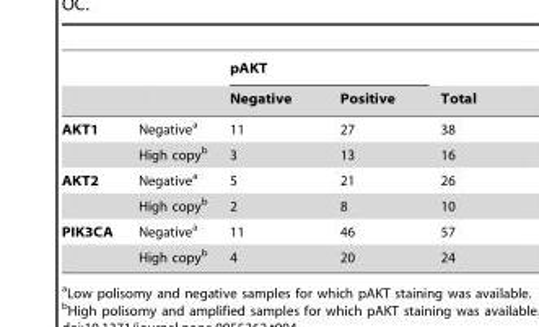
<table><thead><tr><td rowspan="2"></td><td rowspan="2"></td><td colspan="2">pAKT</td><td rowspan="2">Total</td></tr><tr><td>Negative</td><td>Positive</td></tr></thead><tbody><tr><td rowspan="2">AKT1</td><td>Negative<sup>a</sup></td><td>11</td><td>27</td><td>38</td></tr><tr><td>High copy<sup>b</sup></td><td>3</td><td>13</td><td>16</td></tr><tr><td rowspan="2">AKT2</td><td>Negative<sup>a</sup></td><td>5</td><td>21</td><td>26</td></tr><tr><td>High copy<sup>b</sup></td><td>2</td><td>8</td><td>10</td></tr><tr><td rowspan="2">PIK3CA</td><td>Negative<sup>a</sup></td><td>11</td><td>46</td><td>57</td></tr><tr><td>High copy<sup>b</sup></td><td>4</td><td>20</td><td>24</td></tr></tbody></table>